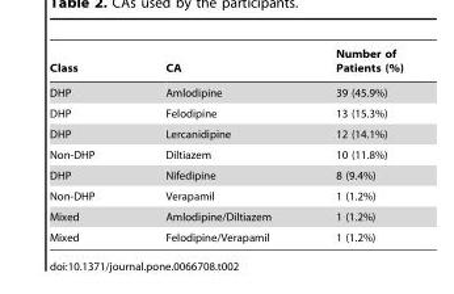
<table><thead><tr><td>Class</td><td>CA</td><td>Number of Patients (%)</td></tr></thead><tbody><tr><td>DHP</td><td>Amlodipine</td><td>39 (45.9%)</td></tr><tr><td>DHP</td><td>Felodipine</td><td>13 (15.3%)</td></tr><tr><td>DHP</td><td>Lercanidipine</td><td>12 (14.1%)</td></tr><tr><td>Non-DHP</td><td>Diltiazem</td><td>10 (11.8%)</td></tr><tr><td>DHP</td><td>Nifedipine</td><td>8 (9.4%)</td></tr><tr><td>Non-DHP</td><td>Verapamil</td><td>1 (1.2%)</td></tr><tr><td>Mixed</td><td>Amlodipine/Diltiazem</td><td>1 (1.2%)</td></tr><tr><td>Mixed</td><td>Felodipine/Verapamil</td><td>1 (1.2%)</td></tr></tbody></table>